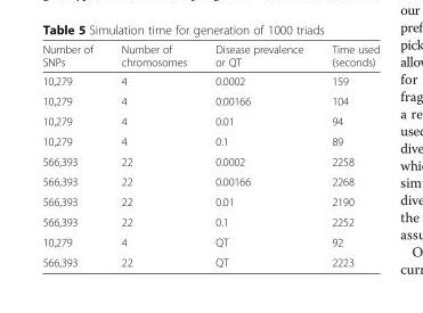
<table><thead><tr><td>Number of SNPs</td><td>Number of chromosomes</td><td>Disease prevalence or QT</td><td>Time used (seconds)</td></tr></thead><tbody><tr><td>10,279</td><td>4</td><td>0.0002</td><td>159</td></tr><tr><td>10,279</td><td>4</td><td>0.00166</td><td>104</td></tr><tr><td>10,279</td><td>4</td><td>0.01</td><td>94</td></tr><tr><td>10,279</td><td>4</td><td>0.1</td><td>89</td></tr><tr><td>566,393</td><td>22</td><td>0.0002</td><td>2258</td></tr><tr><td>566,393</td><td>22</td><td>0.00166</td><td>2268</td></tr><tr><td>566,393</td><td>22</td><td>0.01</td><td>2190</td></tr><tr><td>566,393</td><td>22</td><td>0.1</td><td>2252</td></tr><tr><td>10,279</td><td>4</td><td>QT</td><td>92</td></tr><tr><td>566,393</td><td>22</td><td>QT</td><td>2223</td></tr></tbody></table>